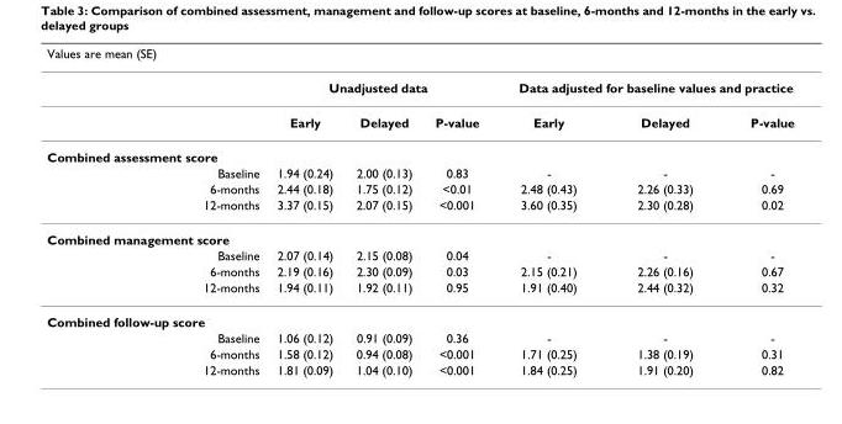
<table><thead><tr><td colspan="7">Values are mean (SE)</td></tr><tr><td rowspan="2"></td><td colspan="3">Unadjusted data</td><td colspan="3">Data adjusted for baseline values and practice</td></tr><tr><td>Early</td><td>Delayed</td><td>P-value</td><td>Early</td><td>Delayed</td><td>P-value</td></tr></thead><tbody><tr><td colspan="7">Combined assessment score</td></tr><tr><td>Baseline</td><td>1.94 (0.24)</td><td>2.00 (0.13)</td><td>0.83</td><td>-</td><td>-</td><td>-</td></tr><tr><td>6-months</td><td>2.44 (0.18)</td><td>1.75 (0.12)</td><td>&lt;0.01</td><td>2.48 (0.43)</td><td>2.26 (0.33)</td><td>0.69</td></tr><tr><td>12-months</td><td>3.37 (0.15)</td><td>2.07 (0.15)</td><td>&lt;0.001</td><td>3.60 (0.35)</td><td>2.30 (0.28)</td><td>0.02</td></tr><tr><td colspan="7">Combined management score</td></tr><tr><td>Baseline</td><td>2.07 (0.14)</td><td>2.15 (0.08)</td><td>0.04</td><td>-</td><td>-</td><td>-</td></tr><tr><td>6-months</td><td>2.19 (0.16)</td><td>2.30 (0.09)</td><td>0.03</td><td>2.15 (0.21)</td><td>2.26 (0.16)</td><td>0.67</td></tr><tr><td>12-months</td><td>1.94 (0.11)</td><td>1.92 (0.11)</td><td>0.95</td><td>1.91 (0.40)</td><td>2.44 (0.32)</td><td>0.32</td></tr><tr><td colspan="7">Combined follow-up score</td></tr><tr><td>Baseline</td><td>1.06 (0.12)</td><td>0.91 (0.09)</td><td>0.36</td><td>-</td><td>-</td><td>-</td></tr><tr><td>6-months</td><td>1.58 (0.12)</td><td>0.94 (0.08)</td><td>&lt;0.001</td><td>1.71 (0.25)</td><td>1.38 (0.19)</td><td>0.31</td></tr><tr><td>12-months</td><td>1.81 (0.09)</td><td>1.04 (0.10)</td><td>&lt;0.001</td><td>1.84 (0.25)</td><td>1.91 (0.20)</td><td>0.82</td></tr></tbody></table>